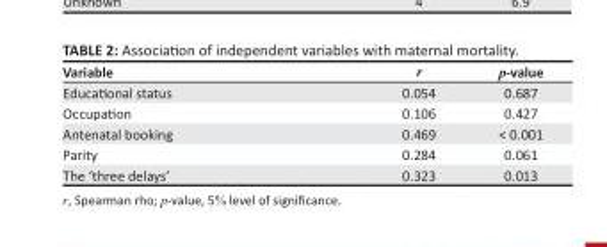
<table><thead><tr><td>Variable</td><td>r</td><td>p-value</td></tr></thead><tbody><tr><td>Educational status</td><td>0.054</td><td>0.687</td></tr><tr><td>Occupation</td><td>0.106</td><td>0.427</td></tr><tr><td>Antenatal booking</td><td>0.469</td><td>&lt; 0.001</td></tr><tr><td>Parity</td><td>0.284</td><td>0.061</td></tr><tr><td>The ‘three delays’</td><td>0.323</td><td>0.013</td></tr></tbody></table>